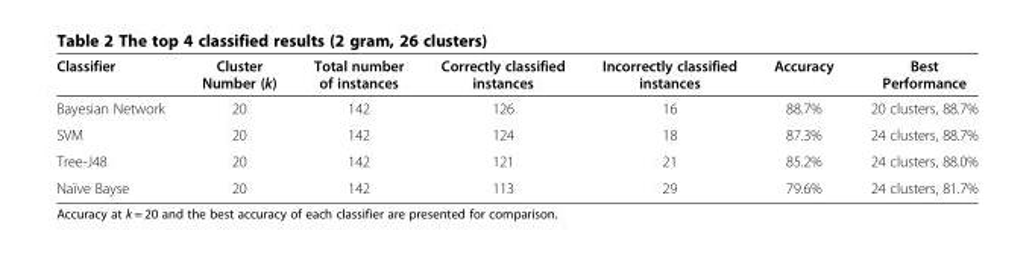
<table><thead><tr><td>Classifier</td><td>Cluster Number (k)</td><td>Total number of instances</td><td>Correctly classified instances</td><td>Incorrectly classified instances</td><td>Accuracy</td><td>Best Performance</td></tr></thead><tbody><tr><td>Bayesian Network</td><td>20</td><td>142</td><td>126</td><td>16</td><td>88.7%</td><td>20 clusters, 88.7%</td></tr><tr><td>SVM</td><td>20</td><td>142</td><td>124</td><td>18</td><td>87.3%</td><td>24 clusters, 88.7%</td></tr><tr><td>Tree-J48</td><td>20</td><td>142</td><td>121</td><td>21</td><td>85.2%</td><td>24 clusters, 88.0%</td></tr><tr><td>Naïve Bayse</td><td>20</td><td>142</td><td>113</td><td>29</td><td>79.6%</td><td>24 clusters, 81.7%</td></tr></tbody></table>